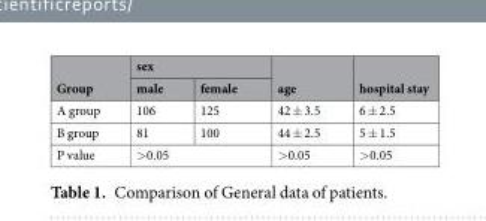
<table><thead><tr><td rowspan="2">Group</td><td colspan="2">sex</td><td rowspan="2">age</td><td rowspan="2">hospital stay</td></tr><tr><td>male</td><td>female</td></tr></thead><tbody><tr><td>A group</td><td>106</td><td>125</td><td>42 ± 3.5</td><td>6 ± 2.5</td></tr><tr><td>B group</td><td>81</td><td>100</td><td>44 ± 2.5</td><td>5 ± 1.5</td></tr><tr><td>P value</td><td colspan="2">&gt;0.05</td><td>&gt;0.05</td><td>&gt;0.05</td></tr></tbody></table>